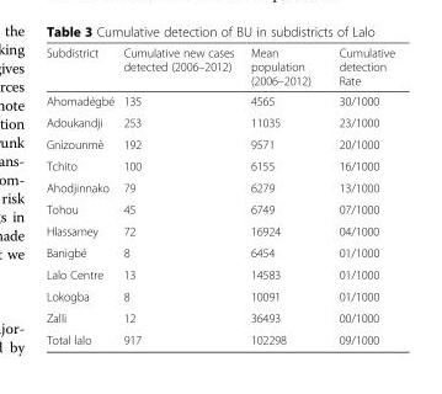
<table><thead><tr><td>Subdistrict</td><td>Cumulative new cases detected (2006–2012)</td><td>Mean population (2006–2012)</td><td>Cumulative detection Rate</td></tr></thead><tbody><tr><td>Ahomadégbé</td><td>135</td><td>4565</td><td>30/1000</td></tr><tr><td>Adoukandji</td><td>253</td><td>11035</td><td>23/1000</td></tr><tr><td>Gnizounmè</td><td>192</td><td>9571</td><td>20/1000</td></tr><tr><td>Tchito</td><td>100</td><td>6155</td><td>16/1000</td></tr><tr><td>Ahodjinnako</td><td>79</td><td>6279</td><td>13/1000</td></tr><tr><td>Tohou</td><td>45</td><td>6749</td><td>07/1000</td></tr><tr><td>Hlassamey</td><td>72</td><td>16924</td><td>04/1000</td></tr><tr><td>Banigbé</td><td>8</td><td>6454</td><td>01/1000</td></tr><tr><td>Lalo Centre</td><td>13</td><td>14583</td><td>01/1000</td></tr><tr><td>Lokogba</td><td>8</td><td>10091</td><td>01/1000</td></tr><tr><td>Zalli</td><td>12</td><td>36493</td><td>00/1000</td></tr><tr><td>Total lalo</td><td>917</td><td>102298</td><td>09/1000</td></tr></tbody></table>